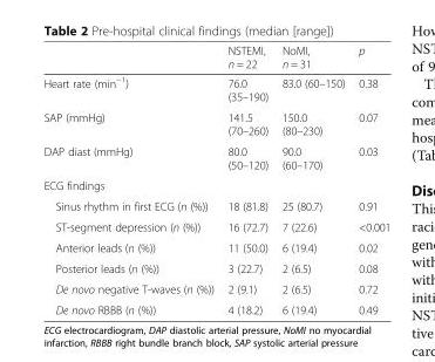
<table><thead><tr><td></td><td>NSTEMI, n = 22</td><td>NoMI, n = 31</td><td>p</td></tr></thead><tbody><tr><td>Heart rate (min<sup>−1</sup>)</td><td>76.0 (35–190)</td><td>83.0 (60–150)</td><td>0.38</td></tr><tr><td>SAP (mmHg)</td><td>141.5 (70–260)</td><td>150.0 (80–230)</td><td>0.07</td></tr><tr><td>DAP diast (mmHg)</td><td>80.0 (50–120)</td><td>90.0 (60–170)</td><td>0.03</td></tr><tr><td colspan="4">ECG findings</td></tr><tr><td>Sinus rhythm in first ECG (n (%))</td><td>18 (81.8)</td><td>25 (80.7)</td><td>0.91</td></tr><tr><td>ST-segment depression (n (%))</td><td>16 (72.7)</td><td>7 (22.6)</td><td>&lt;0.001</td></tr><tr><td>Anterior leads (n (%))</td><td>11 (50.0)</td><td>6 (19.4)</td><td>0.02</td></tr><tr><td>Posterior leads (n (%))</td><td>3 (22.7)</td><td>2 (6.5)</td><td>0.08</td></tr><tr><td>De novo negative T-waves (n (%))</td><td>2 (9.1)</td><td>2 (6.5)</td><td>0.72</td></tr><tr><td>De novo RBBB (n (%))</td><td>4 (18.2)</td><td>6 (19.4)</td><td>0.49</td></tr></tbody></table>